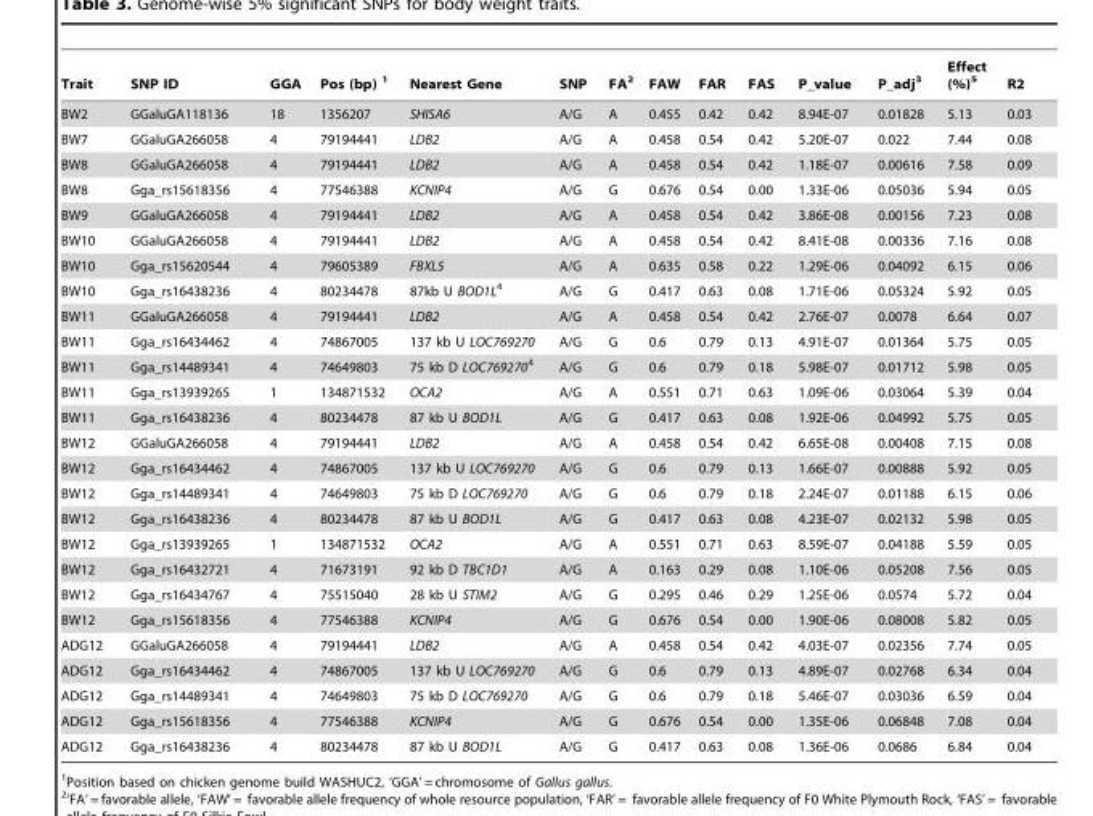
<table><thead><tr><td>Trait</td><td>SNP ID</td><td>GGA</td><td>Pos (bp) 1</td><td>Nearest Gene</td><td>SNP</td><td>FA<sup>2</sup></td><td>FAW</td><td>FAR</td><td>FAS</td><td>P_value</td><td>P_adj<sup>3</sup></td><td>Effect (%)<sup>5</sup></td><td>R2</td></tr></thead><tbody><tr><td>BW2</td><td>GGaluGA118136</td><td>18</td><td>1356207</td><td>SHISA6</td><td>A/G</td><td>A</td><td>0.455</td><td>0.42</td><td>0.42</td><td>8.94E-07</td><td>0.01828</td><td>5.13</td><td>0.03</td></tr><tr><td>BW7</td><td>GGaluGA266058</td><td>4</td><td>79194441</td><td>LDB2</td><td>A/G</td><td>A</td><td>0.458</td><td>0.54</td><td>0.42</td><td>5.20E-07</td><td>0.022</td><td>7.44</td><td>0.08</td></tr><tr><td>BW8</td><td>GGaluGA266058</td><td>4</td><td>79194441</td><td>LDB2</td><td>A/G</td><td>A</td><td>0.458</td><td>0.54</td><td>0.42</td><td>1.18E-07</td><td>0.00616</td><td>7.58</td><td>0.09</td></tr><tr><td>BW8</td><td>Gga_rs15618356</td><td>4</td><td>77546388</td><td>KCNIP4</td><td>A/G</td><td>G</td><td>0.676</td><td>0.54</td><td>0.00</td><td>1.33E-06</td><td>0.05036</td><td>5.94</td><td>0.05</td></tr><tr><td>BW9</td><td>GGaluGA266058</td><td>4</td><td>79194441</td><td>LDB2</td><td>A/G</td><td>A</td><td>0.458</td><td>0.54</td><td>0.42</td><td>3.86E-08</td><td>0.00156</td><td>7.23</td><td>0.08</td></tr><tr><td>BW10</td><td>GGaluGA266058</td><td>4</td><td>79194441</td><td>LDB2</td><td>A/G</td><td>A</td><td>0.458</td><td>0.54</td><td>0.42</td><td>8.41E-08</td><td>0.00336</td><td>7.16</td><td>0.08</td></tr><tr><td>BW10</td><td>Gga_rs15620544</td><td>4</td><td>79605389</td><td>FBXL5</td><td>A/G</td><td>A</td><td>0.635</td><td>0.58</td><td>0.22</td><td>1.29E-06</td><td>0.04092</td><td>6.15</td><td>0.06</td></tr><tr><td>BW10</td><td>Gga_rs16438236</td><td>4</td><td>80234478</td><td>87kb U BOD1L4</td><td>A/G</td><td>G</td><td>0.417</td><td>0.63</td><td>0.08</td><td>1.71E-06</td><td>0.05324</td><td>5.92</td><td>0.05</td></tr><tr><td>BW11</td><td>GGaluGA266058</td><td>4</td><td>79194441</td><td>LDB2</td><td>A/G</td><td>A</td><td>0.458</td><td>0.54</td><td>0.42</td><td>2.76E-07</td><td>0.0078</td><td>6.64</td><td>0.07</td></tr><tr><td>BW11</td><td>Gga_rs16434462</td><td>4</td><td>74867005</td><td>137 kb U LOC769270</td><td>A/G</td><td>G</td><td>0.6</td><td>0.79</td><td>0.13</td><td>4.91E-07</td><td>0.01364</td><td>5.75</td><td>0.05</td></tr><tr><td>BW11</td><td>Gga_rs14489341</td><td>4</td><td>74649803</td><td>75 kb D LOC7692704</td><td>A/G</td><td>G</td><td>0.6</td><td>0.79</td><td>0.18</td><td>5.98E-07</td><td>0.01712</td><td>5.98</td><td>0.05</td></tr><tr><td>BW11</td><td>Gga_rs13939265</td><td>1</td><td>134871532</td><td>OCA2</td><td>A/G</td><td>A</td><td>0.551</td><td>0.71</td><td>0.63</td><td>1.09E-06</td><td>0.03064</td><td>5.39</td><td>0.04</td></tr><tr><td>BW11</td><td>Gga_rs16438236</td><td>4</td><td>80234478</td><td>87 kb U BOD1L</td><td>A/G</td><td>G</td><td>0.417</td><td>0.63</td><td>0.08</td><td>1.92E-06</td><td>0.04992</td><td>5.75</td><td>0.05</td></tr><tr><td>BW12</td><td>GGaluGA266058</td><td>4</td><td>79194441</td><td>LDB2</td><td>A/G</td><td>A</td><td>0.458</td><td>0.54</td><td>0.42</td><td>6.65E-08</td><td>0.00408</td><td>7.15</td><td>0.08</td></tr><tr><td>BW12</td><td>Gga_rs16434462</td><td>4</td><td>74867005</td><td>137 kb U LOC769270</td><td>A/G</td><td>G</td><td>0.6</td><td>0.79</td><td>0.13</td><td>1.66E-07</td><td>0.00888</td><td>5.92</td><td>0.05</td></tr><tr><td>BW12</td><td>Gga_rs14489341</td><td>4</td><td>74649803</td><td>75 kb D LOC769270</td><td>A/G</td><td>G</td><td>0.6</td><td>0.79</td><td>0.18</td><td>2.24E-07</td><td>0.01188</td><td>6.15</td><td>0.06</td></tr><tr><td>BW12</td><td>Gga_rs16438236</td><td>4</td><td>80234478</td><td>87 kb U BOD1L</td><td>A/G</td><td>G</td><td>0.417</td><td>0.63</td><td>0.08</td><td>4.23E-07</td><td>0.02132</td><td>5.98</td><td>0.05</td></tr><tr><td>BW12</td><td>Gga_rs13939265</td><td>1</td><td>134871532</td><td>OCA2</td><td>A/G</td><td>A</td><td>0.551</td><td>0.71</td><td>0.63</td><td>8.59E-07</td><td>0.04188</td><td>5.59</td><td>0.05</td></tr><tr><td>BW12</td><td>Gga_rs16432721</td><td>4</td><td>71673191</td><td>92 kb D TBC1D1</td><td>A/G</td><td>A</td><td>0.163</td><td>0.29</td><td>0.08</td><td>1.10E-06</td><td>0.05208</td><td>7.56</td><td>0.05</td></tr><tr><td>BW12</td><td>Gga_rs16434767</td><td>4</td><td>75515040</td><td>28 kb U STIM2</td><td>A/G</td><td>G</td><td>0.295</td><td>0.46</td><td>0.29</td><td>1.25E-06</td><td>0.0574</td><td>5.72</td><td>0.04</td></tr><tr><td>BW12</td><td>Gga_rs15618356</td><td>4</td><td>77546388</td><td>KCNIP4</td><td>A/G</td><td>G</td><td>0.676</td><td>0.54</td><td>0.00</td><td>1.90E-06</td><td>0.08008</td><td>5.82</td><td>0.05</td></tr><tr><td>ADG12</td><td>GGaluGA266058</td><td>4</td><td>79194441</td><td>LDB2</td><td>A/G</td><td>A</td><td>0.458</td><td>0.54</td><td>0.42</td><td>4.03E-07</td><td>0.02356</td><td>7.74</td><td>0.05</td></tr><tr><td>ADG12</td><td>Gga_rs16434462</td><td>4</td><td>74867005</td><td>137 kb U LOC769270</td><td>A/G</td><td>G</td><td>0.6</td><td>0.79</td><td>0.13</td><td>4.89E-07</td><td>0.02768</td><td>6.34</td><td>0.04</td></tr><tr><td>ADG12</td><td>Gga_rs14489341</td><td>4</td><td>74649803</td><td>75 kb D LOC769270</td><td>A/G</td><td>G</td><td>0.6</td><td>0.79</td><td>0.18</td><td>5.46E-07</td><td>0.03036</td><td>6.59</td><td>0.04</td></tr><tr><td>ADG12</td><td>Gga_rs15618356</td><td>4</td><td>77546388</td><td>KCNIP4</td><td>A/G</td><td>G</td><td>0.676</td><td>0.54</td><td>0.00</td><td>1.35E-06</td><td>0.06848</td><td>7.08</td><td>0.04</td></tr><tr><td>ADG12</td><td>Gga_rs16438236</td><td>4</td><td>80234478</td><td>87 kb U BOD1L</td><td>A/G</td><td>G</td><td>0.417</td><td>0.63</td><td>0.08</td><td>1.36E-06</td><td>0.0686</td><td>6.84</td><td>0.04</td></tr></tbody></table>